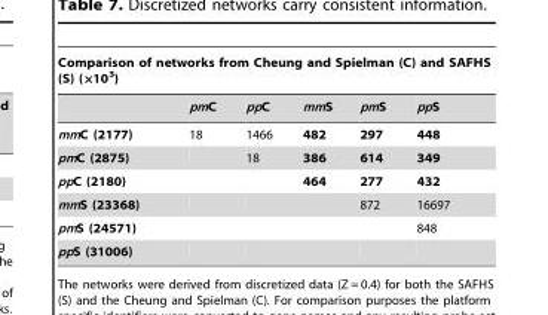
<table><thead><tr><td colspan="6">Comparison of networks from Cheung and Spielman (C) and SAFHS (S) (×10<sup>3</sup>)</td></tr><tr><td></td><td>pmC</td><td>ppC</td><td>mmS</td><td>pmS</td><td>ppS</td></tr></thead><tbody><tr><td>mmC (2177)</td><td>18</td><td>1466</td><td>482</td><td>297</td><td>448</td></tr><tr><td>pmC (2875)</td><td></td><td>18</td><td>386</td><td>614</td><td>349</td></tr><tr><td>ppC (2180)</td><td></td><td></td><td>464</td><td>277</td><td>432</td></tr><tr><td>mmS (23368)</td><td></td><td></td><td></td><td>872</td><td>16697</td></tr><tr><td>pmS (24571)</td><td></td><td></td><td></td><td></td><td>848</td></tr><tr><td>ppS (31006)</td><td></td><td></td><td></td><td></td><td></td></tr></tbody></table>